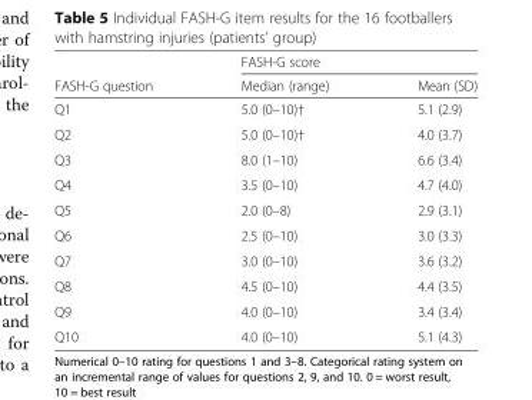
<table><thead><tr><td rowspan="2">FASH-G question</td><td colspan="2">FASH-G score</td></tr><tr><td>Median (range)</td><td>Mean (SD)</td></tr></thead><tbody><tr><td>Q1</td><td>5.0 (0–10)†</td><td>5.1 (2.9)</td></tr><tr><td>Q2</td><td>5.0 (0–10)†</td><td>4.0 (3.7)</td></tr><tr><td>Q3</td><td>8.0 (1–10)</td><td>6.6 (3.4)</td></tr><tr><td>Q4</td><td>3.5 (0–10)</td><td>4.7 (4.0)</td></tr><tr><td>Q5</td><td>2.0 (0–8)</td><td>2.9 (3.1)</td></tr><tr><td>Q6</td><td>2.5 (0–10)</td><td>3.0 (3.3)</td></tr><tr><td>Q7</td><td>3.0 (0–10)</td><td>3.6 (3.2)</td></tr><tr><td>Q8</td><td>4.5 (0–10)</td><td>4.4 (3.5)</td></tr><tr><td>Q9</td><td>4.0 (0–10)</td><td>3.4 (3.4)</td></tr><tr><td>Q10</td><td>4.0 (0–10)</td><td>5.1 (4.3)</td></tr></tbody></table>